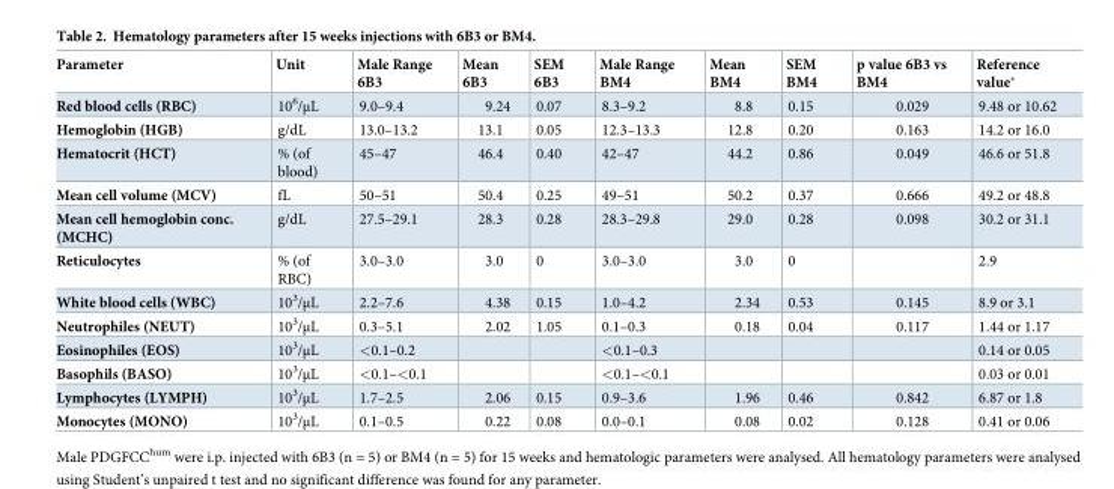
<table><thead><tr><td>Parameter</td><td>Unit</td><td>Male Range 6B3</td><td>Mean 6B3</td><td>SEM 6B3</td><td>Male Range BM4</td><td>Mean BM4</td><td>SEM BM4</td><td>p value 6B3 vs BM4</td><td>Reference value*</td></tr></thead><tbody><tr><td>Red blood cells (RBC)</td><td>10<sup>6</sup>/μL</td><td>9.0–9.4</td><td>9.24</td><td>0.07</td><td>8.3–9.2</td><td>8.8</td><td>0.15</td><td>0.029</td><td>9.48 or 10.62</td></tr><tr><td>Hemoglobin (HGB)</td><td>g/dL</td><td>13.0–13.2</td><td>13.1</td><td>0.05</td><td>12.3–13.3</td><td>12.8</td><td>0.20</td><td>0.163</td><td>14.2 or 16.0</td></tr><tr><td>Hematocrit (HCT)</td><td>% (of blood)</td><td>45–47</td><td>46.4</td><td>0.40</td><td>42–47</td><td>44.2</td><td>0.86</td><td>0.049</td><td>46.6 or 51.8</td></tr><tr><td>Mean cell volume (MCV)</td><td>fL</td><td>50–51</td><td>50.4</td><td>0.25</td><td>49–51</td><td>50.2</td><td>0.37</td><td>0.666</td><td>49.2 or 48.8</td></tr><tr><td>Mean cell hemoglobin conc. (MCHC)</td><td>g/dL</td><td>27.5–29.1</td><td>28.3</td><td>0.28</td><td>28.3–29.8</td><td>29.0</td><td>0.28</td><td>0.098</td><td>30.2 or 31.1</td></tr><tr><td>Reticulocytes</td><td>% (of RBC)</td><td>3.0–3.0</td><td>3.0</td><td>0</td><td>3.0–3.0</td><td>3.0</td><td>0</td><td></td><td>2.9</td></tr><tr><td>White blood cells (WBC)</td><td>10<sup>3</sup>/μL</td><td>2.2–7.6</td><td>4.38</td><td>0.15</td><td>1.0–4.2</td><td>2.34</td><td>0.53</td><td>0.145</td><td>8.9 or 3.1</td></tr><tr><td>Neutrophiles (NEUT)</td><td>10<sup>3</sup>/μL</td><td>0.3–5.1</td><td>2.02</td><td>1.05</td><td>0.1–0.3</td><td>0.18</td><td>0.04</td><td>0.117</td><td>1.44 or 1.17</td></tr><tr><td>Eosinophiles (EOS)</td><td>10<sup>3</sup>/μL</td><td>&lt;0.1–0.2</td><td></td><td></td><td>&lt;0.1–0.3</td><td></td><td></td><td></td><td>0.14 or 0.05</td></tr><tr><td>Basophils (BASO)</td><td>10<sup>3</sup>/μL</td><td>&lt;0.1–&lt;0.1</td><td></td><td></td><td>&lt;0.1–&lt;0.1</td><td></td><td></td><td></td><td>0.03 or 0.01</td></tr><tr><td>Lymphocytes (LYMPH)</td><td>10<sup>3</sup>/μL</td><td>1.7–2.5</td><td>2.06</td><td>0.15</td><td>0.9–3.6</td><td>1.96</td><td>0.46</td><td>0.842</td><td>6.87 or 1.8</td></tr><tr><td>Monocytes (MONO)</td><td>10<sup>3</sup>/μL</td><td>0.1–0.5</td><td>0.22</td><td>0.08</td><td>0.0–0.1</td><td>0.08</td><td>0.02</td><td>0.128</td><td>0.41 or 0.06</td></tr></tbody></table>